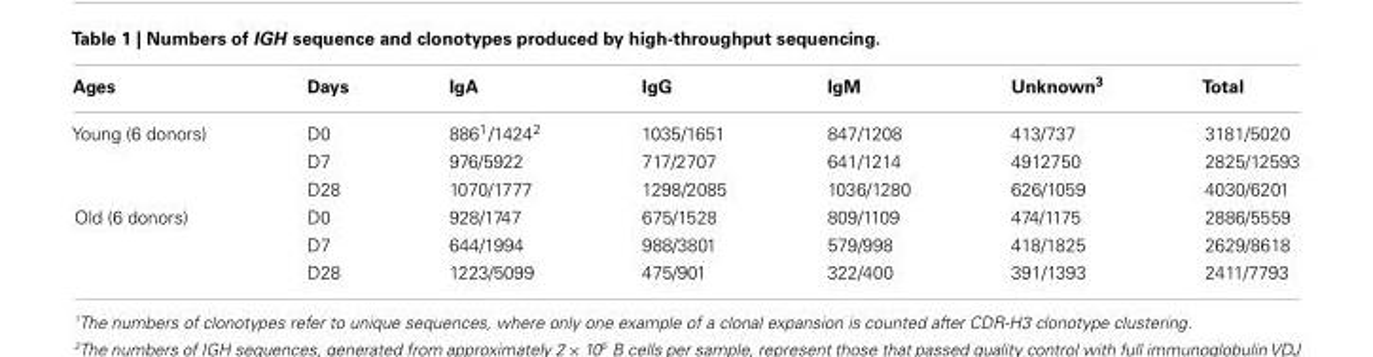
<table><thead><tr><td>Ages</td><td>Days</td><td>IgA</td><td>IgG</td><td>IgM</td><td>Unknown<sup>3</sup></td><td>Total</td></tr></thead><tbody><tr><td rowspan="3">Young (6 donors)</td><td>D0</td><td>886<sup>1</sup>/1424<sup>2</sup></td><td>1035/1651</td><td>847/1208</td><td>413/737</td><td>3181/5020</td></tr><tr><td>D7</td><td>976/5922</td><td>717/2707</td><td>641/1214</td><td>4912750</td><td>2825/12593</td></tr><tr><td>D28</td><td>1070/1777</td><td>1298/2085</td><td>1036/1280</td><td>626/1059</td><td>4030/6201</td></tr><tr><td rowspan="3">Old (6 donors)</td><td>D0</td><td>928/1747</td><td>675/1528</td><td>809/1109</td><td>474/1175</td><td>2886/5559</td></tr><tr><td>D7</td><td>644/1994</td><td>988/3801</td><td>579/998</td><td>418/1825</td><td>2629/8618</td></tr><tr><td>D28</td><td>1223/5099</td><td>475/901</td><td>322/400</td><td>391/1393</td><td>2411/7793</td></tr></tbody></table>